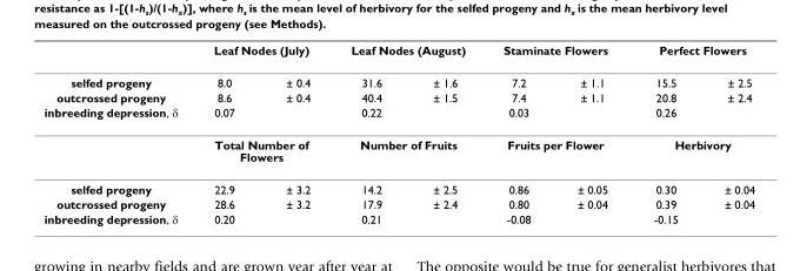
<table><thead><tr><td rowspan="2">selfed progeny</td><td colspan="2">Leaf Nodes (July)</td><td colspan="2">Leaf Nodes (August)</td><td colspan="2">Staminate Flowers</td><td colspan="2">Perfect Flowers</td></tr><tr><td>8.0</td><td>± 0.4</td><td>31.6</td><td>± 1.6</td><td>7.2</td><td>± 1.1</td><td>15.5</td><td>± 2.5</td></tr></thead><tbody><tr><td>outcrossed progeny</td><td>8.6</td><td>± 0.4</td><td>40.4</td><td>± 1.5</td><td>7.4</td><td>± 1.1</td><td>20.8</td><td>± 2.4</td></tr><tr><td rowspan="2">inbreeding depression, δ</td><td>0.07</td><td></td><td>0.22</td><td></td><td>0.03</td><td></td><td>0.26</td><td></td></tr><tr><td colspan="2">Total Number of Flowers</td><td colspan="2">Number of Fruits</td><td colspan="2">Fruits per Flower</td><td colspan="2">Herbivory</td></tr><tr><td>selfed progeny</td><td>22.9</td><td>± 3.2</td><td>14.2</td><td>± 2.5</td><td>0.86</td><td>± 0.05</td><td>0.30</td><td>± 0.04</td></tr><tr><td>outcrossed progeny</td><td>28.6</td><td>± 3.2</td><td>17.9</td><td>± 2.4</td><td>0.80</td><td>± 0.04</td><td>0.39</td><td>± 0.04</td></tr><tr><td>inbreeding depression, δ</td><td>0.20</td><td></td><td>0.21</td><td></td><td>-0.08</td><td></td><td>-0.15</td><td></td></tr></tbody></table>